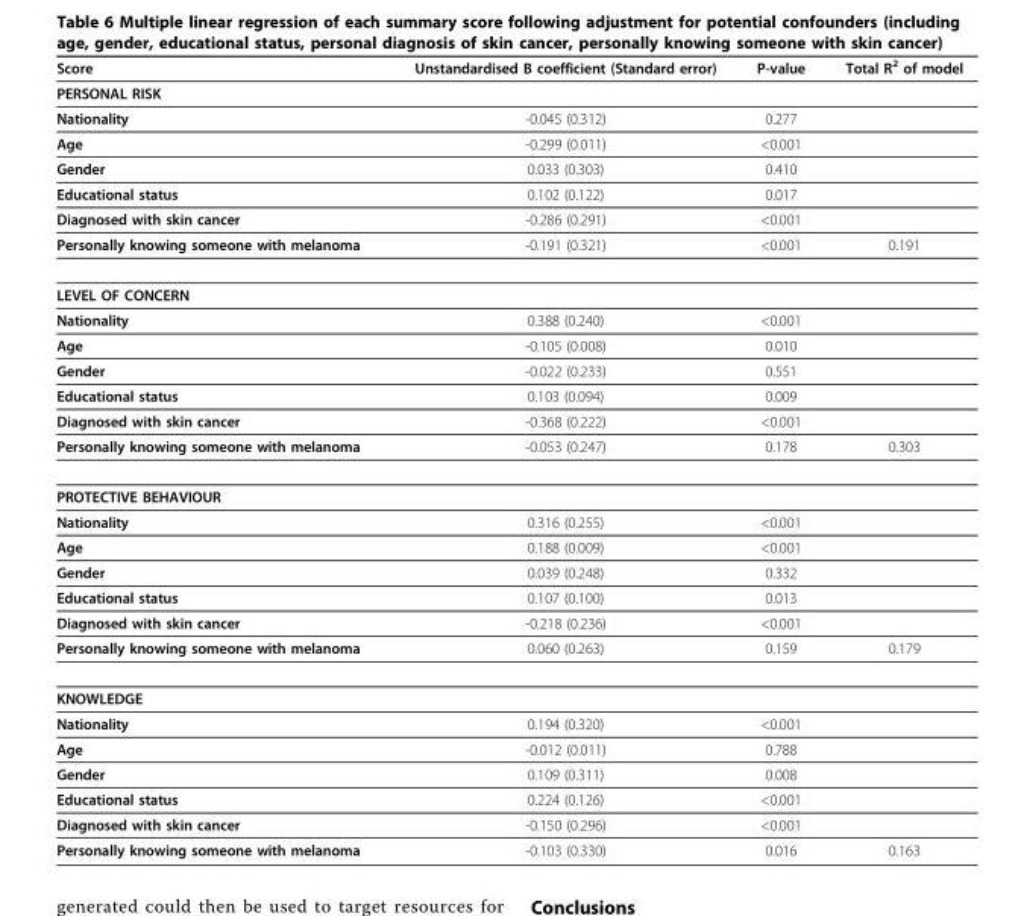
<table><thead><tr><td>Score</td><td>Unstandardised B coefficient (Standard error)</td><td>P-value</td><td>Total R2 of model</td></tr></thead><tbody><tr><td colspan="4">PERSONAL RISK</td></tr><tr><td>Nationality</td><td>-0.045 (0.312)</td><td>0.277</td><td></td></tr><tr><td>Age</td><td>-0.299 (0.011)</td><td>&lt;0.001</td><td></td></tr><tr><td>Gender</td><td>0.033 (0.303)</td><td>0.410</td><td></td></tr><tr><td>Educational status</td><td>0.102 (0.122)</td><td>0.017</td><td></td></tr><tr><td>Diagnosed with skin cancer</td><td>-0.286 (0.291)</td><td>&lt;0.001</td><td></td></tr><tr><td>Personally knowing someone with melanoma</td><td>-0.191 (0.321)</td><td>&lt;0.001</td><td>0.191</td></tr><tr><td colspan="4">LEVEL OF CONCERN</td></tr><tr><td>Nationality</td><td>0.388 (0.240)</td><td>&lt;0.001</td><td></td></tr><tr><td>Age</td><td>-0.105 (0.008)</td><td>0.010</td><td></td></tr><tr><td>Gender</td><td>-0.022 (0.233)</td><td>0.551</td><td></td></tr><tr><td>Educational status</td><td>0.103 (0.094)</td><td>0.009</td><td></td></tr><tr><td>Diagnosed with skin cancer</td><td>-0.368 (0.222)</td><td>&lt;0.001</td><td></td></tr><tr><td>Personally knowing someone with melanoma</td><td>-0.053 (0.247)</td><td>0.178</td><td>0.303</td></tr><tr><td colspan="4">PROTECTIVE BEHAVIOUR</td></tr><tr><td>Nationality</td><td>0.316 (0.255)</td><td>&lt;0.001</td><td></td></tr><tr><td>Age</td><td>0.188 (0.009)</td><td>&lt;0.001</td><td></td></tr><tr><td>Gender</td><td>0.039 (0.248)</td><td>0.332</td><td></td></tr><tr><td>Educational status</td><td>0.107 (0.100)</td><td>0.013</td><td></td></tr><tr><td>Diagnosed with skin cancer</td><td>-0.218 (0.236)</td><td>&lt;0.001</td><td></td></tr><tr><td>Personally knowing someone with melanoma</td><td>0.060 (0.263)</td><td>0.159</td><td>0.179</td></tr><tr><td colspan="4">KNOWLEDGE</td></tr><tr><td>Nationality</td><td>0.194 (0.320)</td><td>&lt;0.001</td><td></td></tr><tr><td>Age</td><td>-0.012 (0.011)</td><td>0.788</td><td></td></tr><tr><td>Gender</td><td>0.109 (0.311)</td><td>0.008</td><td></td></tr><tr><td>Educational status</td><td>0.224 (0.126)</td><td>&lt;0.001</td><td></td></tr><tr><td>Diagnosed with skin cancer</td><td>-0.150 (0.296)</td><td>&lt;0.001</td><td></td></tr><tr><td>Personally knowing someone with melanoma</td><td>-0.103 (0.330)</td><td>0.016</td><td>0.163</td></tr></tbody></table>